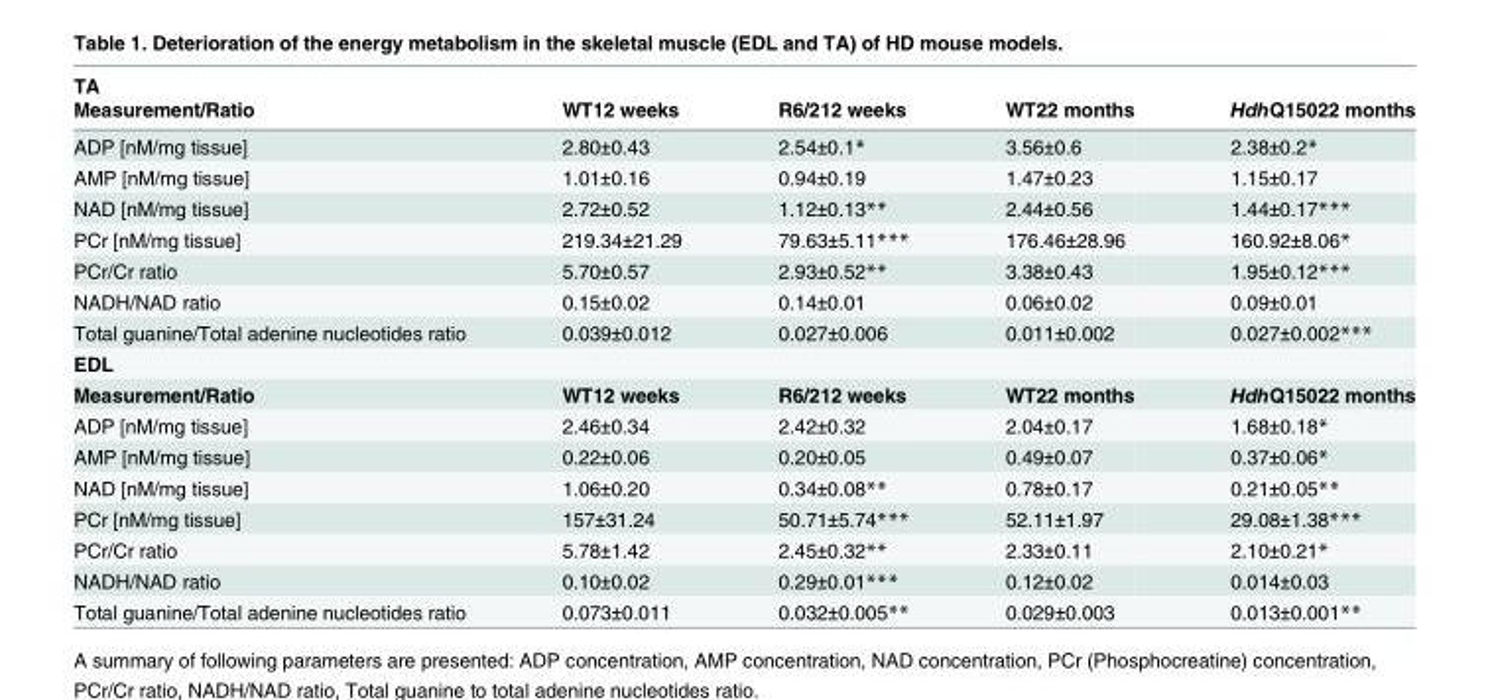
<table><thead><tr><td rowspan="2">TA Measurement/Ratio</td><td rowspan="2">WT12 weeks</td><td rowspan="2">R6/212 weeks</td><td rowspan="2">WT22 months</td><td rowspan="2">HdhQ15022 months</td></tr><tr></tr></thead><tbody><tr><td>ADP [nM/mg tissue]</td><td>2.80±0.43</td><td>2.54±0.1*</td><td>3.56±0.6</td><td>2.38±0.2*</td></tr><tr><td>AMP [nM/mg tissue]</td><td>1.01±0.16</td><td>0.94±0.19</td><td>1.47±0.23</td><td>1.15±0.17</td></tr><tr><td>NAD [nM/mg tissue]</td><td>2.72±0.52</td><td>1.12±0.13**</td><td>2.44±0.56</td><td>1.44±0.17***</td></tr><tr><td>PCr [nM/mg tissue]</td><td>219.34±21.29</td><td>79.63±5.11***</td><td>176.46±28.96</td><td>160.92±8.06*</td></tr><tr><td>PCr/Cr ratio</td><td>5.70±0.57</td><td>2.93±0.52**</td><td>3.38±0.43</td><td>1.95±0.12***</td></tr><tr><td>NADH/NAD ratio</td><td>0.15±0.02</td><td>0.14±0.01</td><td>0.06±0.02</td><td>0.09±0.01</td></tr><tr><td>Total guanine/Total adenine nucleotides ratio</td><td>0.039±0.012</td><td>0.027±0.006</td><td>0.011±0.002</td><td>0.027±0.002***</td></tr><tr><td colspan="5">EDL</td></tr><tr><td>Measurement/Ratio</td><td>WT12 weeks</td><td>R6/212 weeks</td><td>WT22 months</td><td>HdhQ15022 months</td></tr><tr><td>ADP [nM/mg tissue]</td><td>2.46±0.34</td><td>2.42±0.32</td><td>2.04±0.17</td><td>1.68±0.18*</td></tr><tr><td>AMP [nM/mg tissue]</td><td>0.22±0.06</td><td>0.20±0.05</td><td>0.49±0.07</td><td>0.37±0.06*</td></tr><tr><td>NAD [nM/mg tissue]</td><td>1.06±0.20</td><td>0.34±0.08**</td><td>0.78±0.17</td><td>0.21±0.05**</td></tr><tr><td>PCr [nM/mg tissue]</td><td>157±31.24</td><td>50.71±5.74***</td><td>52.11±1.97</td><td>29.08±1.38***</td></tr><tr><td>PCr/Cr ratio</td><td>5.78±1.42</td><td>2.45±0.32**</td><td>2.33±0.11</td><td>2.10±0.21*</td></tr><tr><td>NADH/NAD ratio</td><td>0.10±0.02</td><td>0.29±0.01***</td><td>0.12±0.02</td><td>0.014±0.03</td></tr><tr><td>Total guanine/Total adenine nucleotides ratio</td><td>0.073±0.011</td><td>0.032±0.005**</td><td>0.029±0.003</td><td>0.013±0.001**</td></tr></tbody></table>